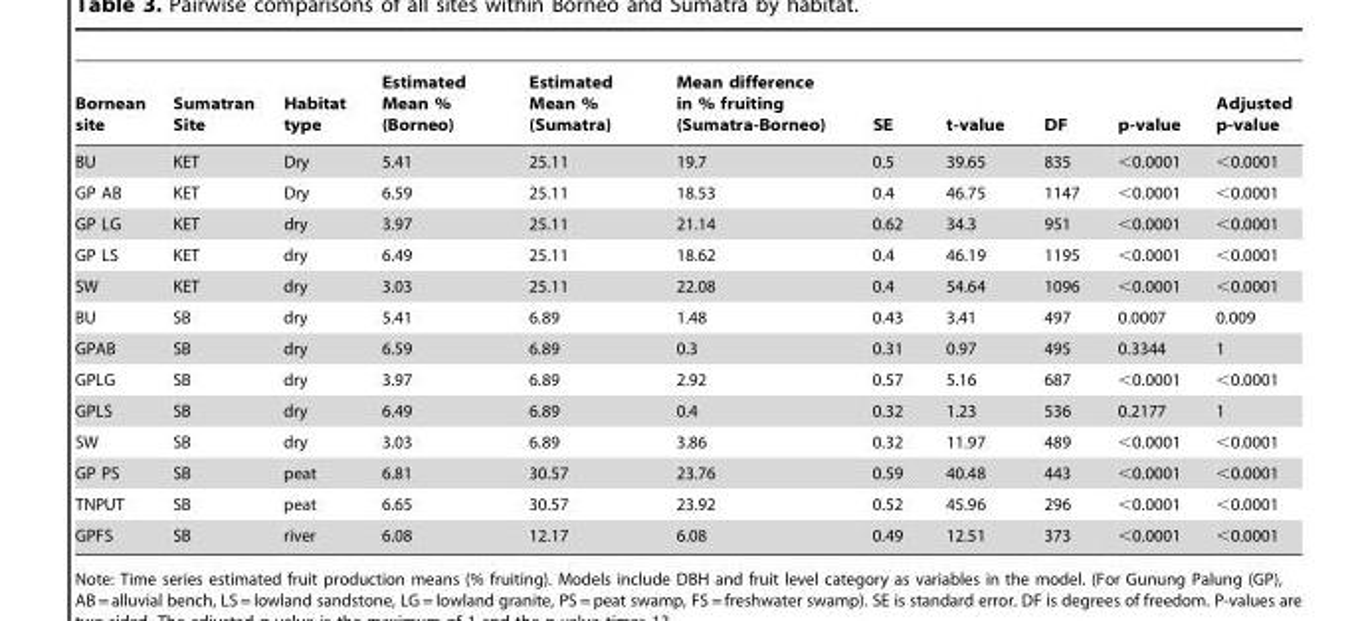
<table><thead><tr><td>Bornean site</td><td>Sumatran Site</td><td>Habitat type</td><td>Estimated Mean % (Borneo)</td><td>Estimated Mean % (Sumatra)</td><td>Mean difference in % fruiting (Sumatra-Borneo)</td><td>SE</td><td>t-value</td><td>DF</td><td>p-value</td><td>Adjusted p-value</td></tr></thead><tbody><tr><td>BU</td><td>KET</td><td>Dry</td><td>5.41</td><td>25.11</td><td>19.7</td><td>0.5</td><td>39.65</td><td>835</td><td>&lt;0.0001</td><td>&lt;0.0001</td></tr><tr><td>GP AB</td><td>KET</td><td>Dry</td><td>6.59</td><td>25.11</td><td>18.53</td><td>0.4</td><td>46.75</td><td>1147</td><td>&lt;0.0001</td><td>&lt;0.0001</td></tr><tr><td>GP LG</td><td>KET</td><td>dry</td><td>3.97</td><td>25.11</td><td>21.14</td><td>0.62</td><td>34.3</td><td>951</td><td>&lt;0.0001</td><td>&lt;0.0001</td></tr><tr><td>GP LS</td><td>KET</td><td>dry</td><td>6.49</td><td>25.11</td><td>18.62</td><td>0.4</td><td>46.19</td><td>1195</td><td>&lt;0.0001</td><td>&lt;0.0001</td></tr><tr><td>SW</td><td>KET</td><td>dry</td><td>3.03</td><td>25.11</td><td>22.08</td><td>0.4</td><td>54.64</td><td>1096</td><td>&lt;0.0001</td><td>&lt;0.0001</td></tr><tr><td>BU</td><td>SB</td><td>dry</td><td>5.41</td><td>6.89</td><td>1.48</td><td>0.43</td><td>3.41</td><td>497</td><td>0.0007</td><td>0.009</td></tr><tr><td>GPAB</td><td>SB</td><td>dry</td><td>6.59</td><td>6.89</td><td>0.3</td><td>0.31</td><td>0.97</td><td>495</td><td>0.3344</td><td>1</td></tr><tr><td>GPLG</td><td>SB</td><td>dry</td><td>3.97</td><td>6.89</td><td>2.92</td><td>0.57</td><td>5.16</td><td>687</td><td>&lt;0.0001</td><td>&lt;0.0001</td></tr><tr><td>GPLS</td><td>SB</td><td>dry</td><td>6.49</td><td>6.89</td><td>0.4</td><td>0.32</td><td>1.23</td><td>536</td><td>0.2177</td><td>1</td></tr><tr><td>SW</td><td>SB</td><td>dry</td><td>3.03</td><td>6.89</td><td>3.86</td><td>0.32</td><td>11.97</td><td>489</td><td>&lt;0.0001</td><td>&lt;0.0001</td></tr><tr><td>GP PS</td><td>SB</td><td>peat</td><td>6.81</td><td>30.57</td><td>23.76</td><td>0.59</td><td>40.48</td><td>443</td><td>&lt;0.0001</td><td>&lt;0.0001</td></tr><tr><td>TNPUT</td><td>SB</td><td>peat</td><td>6.65</td><td>30.57</td><td>23.92</td><td>0.52</td><td>45.96</td><td>296</td><td>&lt;0.0001</td><td>&lt;0.0001</td></tr><tr><td>GPFS</td><td>SB</td><td>river</td><td>6.08</td><td>12.17</td><td>6.08</td><td>0.49</td><td>12.51</td><td>373</td><td>&lt;0.0001</td><td>&lt;0.0001</td></tr></tbody></table>